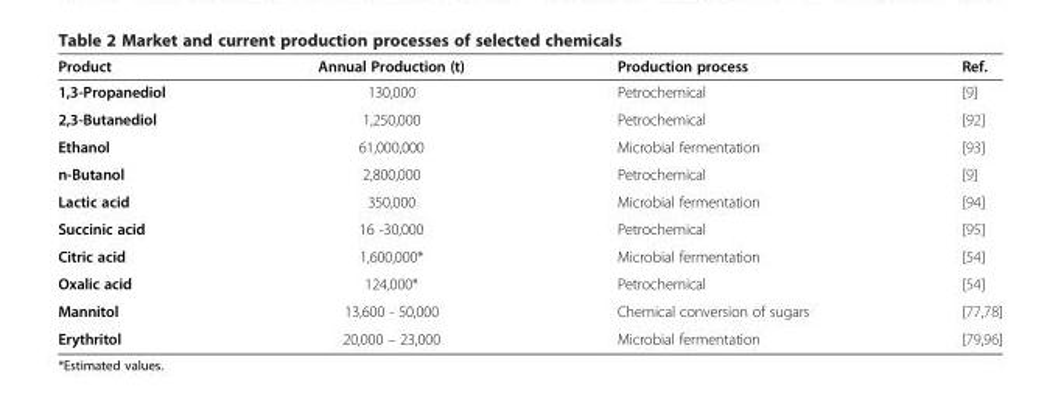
<table><thead><tr><td>Product</td><td>Annual Production (t)</td><td>Production process</td><td>Ref.</td></tr></thead><tbody><tr><td>1,3-Propanediol</td><td>130,000</td><td>Petrochemical</td><td>[9]</td></tr><tr><td>2,3-Butanediol</td><td>1,250,000</td><td>Petrochemical</td><td>[92]</td></tr><tr><td>Ethanol</td><td>61,000,000</td><td>Microbial fermentation</td><td>[93]</td></tr><tr><td>n-Butanol</td><td>2,800,000</td><td>Petrochemical</td><td>[9]</td></tr><tr><td>Lactic acid</td><td>350,000</td><td>Microbial fermentation</td><td>[94]</td></tr><tr><td>Succinic acid</td><td>16 -30,000</td><td>Petrochemical</td><td>[95]</td></tr><tr><td>Citric acid</td><td>1,600,000*</td><td>Microbial fermentation</td><td>[54]</td></tr><tr><td>Oxalic acid</td><td>124,000*</td><td>Petrochemical</td><td>[54]</td></tr><tr><td>Mannitol</td><td>13,600 - 50,000</td><td>Chemical conversion of sugars</td><td>[77,78]</td></tr><tr><td>Erythritol</td><td>20,000 – 23,000</td><td>Microbial fermentation</td><td>[79,96]</td></tr></tbody></table>